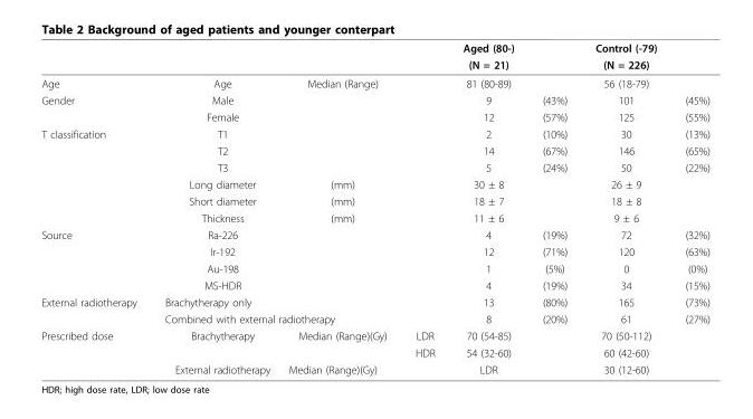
<table><thead><tr><td rowspan="2"></td><td rowspan="2"></td><td rowspan="2"></td><td rowspan="2"></td><td rowspan="2">Aged (80-) (N = 21)</td><td rowspan="2"></td><td rowspan="2">Control (-79) (N = 226)</td><td rowspan="2"></td></tr><tr></tr></thead><tbody><tr><td>Age</td><td>Age</td><td>Median (Range)</td><td></td><td>81 (80-89)</td><td></td><td>56 (18-79)</td><td></td></tr><tr><td rowspan="2">Gender</td><td>Male</td><td></td><td></td><td>9</td><td>(43%)</td><td>101</td><td>(45%)</td></tr><tr><td>Female</td><td></td><td></td><td>12</td><td>(57%)</td><td>125</td><td>(55%)</td></tr><tr><td rowspan="6">T classification</td><td>T1</td><td></td><td></td><td>2</td><td>(10%)</td><td>30</td><td>(13%)</td></tr><tr><td>T2</td><td></td><td></td><td>14</td><td>(67%)</td><td>146</td><td>(65%)</td></tr><tr><td>T3</td><td></td><td></td><td>5</td><td>(24%)</td><td>50</td><td>(22%)</td></tr><tr><td>Long diameter</td><td>(mm)</td><td></td><td>30 ± 8</td><td></td><td>26 ± 9</td><td></td></tr><tr><td>Short diameter</td><td>(mm)</td><td></td><td>18 ± 7</td><td></td><td>18 ± 8</td><td></td></tr><tr><td>Thickness</td><td>(mm)</td><td></td><td>11 ± 6</td><td></td><td>9 ± 6</td><td></td></tr><tr><td rowspan="4">Source</td><td>Ra-226</td><td></td><td></td><td>4</td><td>(19%)</td><td>72</td><td>(32%)</td></tr><tr><td>Ir-192</td><td></td><td></td><td>12</td><td>(71%)</td><td>120</td><td>(63%)</td></tr><tr><td>Au-198</td><td></td><td></td><td>1</td><td>(5%)</td><td>0</td><td>(0%)</td></tr><tr><td>MS-HDR</td><td></td><td></td><td>4</td><td>(19%)</td><td>34</td><td>(15%)</td></tr><tr><td rowspan="2">External radiotherapy</td><td>Brachytherapy only</td><td></td><td></td><td>13</td><td>(80%)</td><td>165</td><td>(73%)</td></tr><tr><td colspan="2">Combined with external radiotherapy</td><td></td><td>8</td><td>(20%)</td><td>61</td><td>(27%)</td></tr><tr><td rowspan="3">Prescribed dose</td><td>Brachytherapy</td><td>Median (Range)(Gy)</td><td>LDR</td><td>70 (54-85)</td><td></td><td>70 (50-112)</td><td></td></tr><tr><td></td><td></td><td>HDR</td><td>54 (32-60)</td><td></td><td>60 (42-60)</td><td></td></tr><tr><td>External radiotherapy</td><td colspan="2">Median (Range)(Gy)</td><td>LDR</td><td></td><td>30 (12-60)</td><td></td></tr></tbody></table>